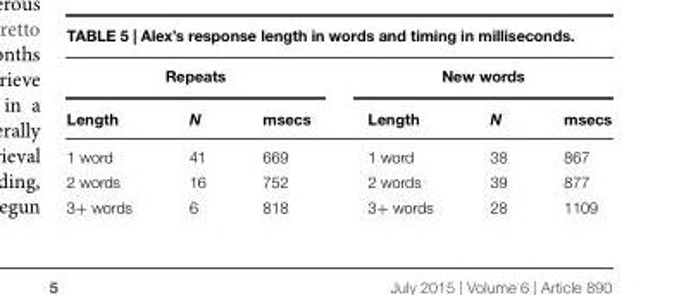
<table><thead><tr><td colspan="3">Repeats</td><td colspan="3">New words</td></tr><tr><td>Length</td><td>N</td><td>msecs</td><td>Length</td><td>N</td><td>msecs</td></tr></thead><tbody><tr><td>1 word</td><td>41</td><td>669</td><td>1 word</td><td>38</td><td>867</td></tr><tr><td>2 words</td><td>16</td><td>752</td><td>2 words</td><td>39</td><td>877</td></tr><tr><td>3+ words</td><td>6</td><td>818</td><td>3+ words</td><td>28</td><td>1109</td></tr></tbody></table>